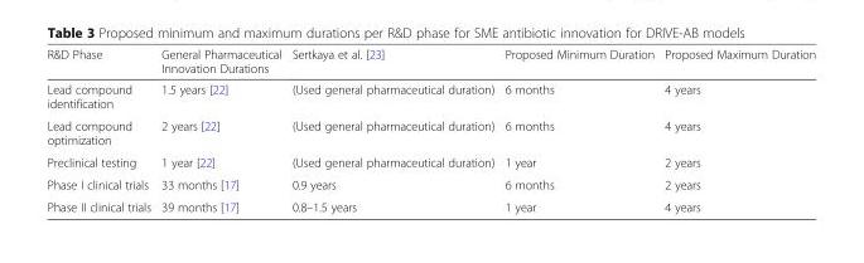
<table><thead><tr><td>R&amp;D Phase</td><td>General Pharmaceutical Innovation Durations</td><td>Sertkaya et al. [23]</td><td>Proposed Minimum Duration</td><td>Proposed Maximum Duration</td></tr></thead><tbody><tr><td>Lead compound identification</td><td>1.5 years [22]</td><td>(Used general pharmaceutical duration)</td><td>6 months</td><td>4 years</td></tr><tr><td>Lead compound optimization</td><td>2 years [22]</td><td>(Used general pharmaceutical duration)</td><td>6 months</td><td>4 years</td></tr><tr><td>Preclinical testing</td><td>1 year [22]</td><td>(Used general pharmaceutical duration)</td><td>1 year</td><td>2 years</td></tr><tr><td>Phase I clinical trials</td><td>33 months [17]</td><td>0.9 years</td><td>6 months</td><td>2 years</td></tr><tr><td>Phase II clinical trials</td><td>39 months [17]</td><td>0.8–1.5 years</td><td>1 year</td><td>4 years</td></tr></tbody></table>